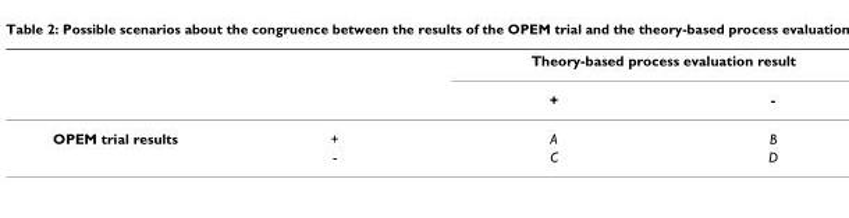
<table><thead><tr><td rowspan="2"></td><td rowspan="2"></td><td colspan="2">Theory-based process evaluation result</td></tr><tr><td>+</td><td>-</td></tr></thead><tbody><tr><td rowspan="2">OPEM trial results</td><td>+</td><td>A</td><td>B</td></tr><tr><td>-</td><td>C</td><td>D</td></tr></tbody></table>